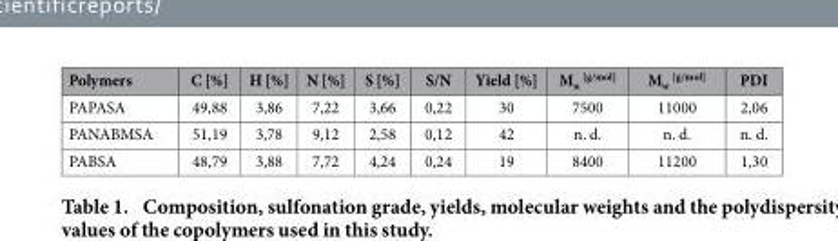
<table><thead><tr><td>Polymers</td><td>C [%]</td><td>H [%]</td><td>N [%]</td><td>S [%]</td><td>S/N</td><td>Yield [%]</td><td>M<sub>n</sub> <sup>[g/mol]</sup></td><td>M<sub>w</sub> <sup>[g/mol]</sup></td><td>PDI</td></tr></thead><tbody><tr><td>PAPASA</td><td>49,88</td><td>3,86</td><td>7,22</td><td>3,66</td><td>0,22</td><td>30</td><td>7500</td><td>11000</td><td>2,06</td></tr><tr><td>PANABMSA</td><td>51,19</td><td>3,78</td><td>9,12</td><td>2,58</td><td>0,12</td><td>42</td><td>n. d.</td><td>n. d.</td><td>n. d.</td></tr><tr><td>PABSA</td><td>48,79</td><td>3,88</td><td>7,72</td><td>4,24</td><td>0,24</td><td>19</td><td>8400</td><td>11200</td><td>1,30</td></tr></tbody></table>